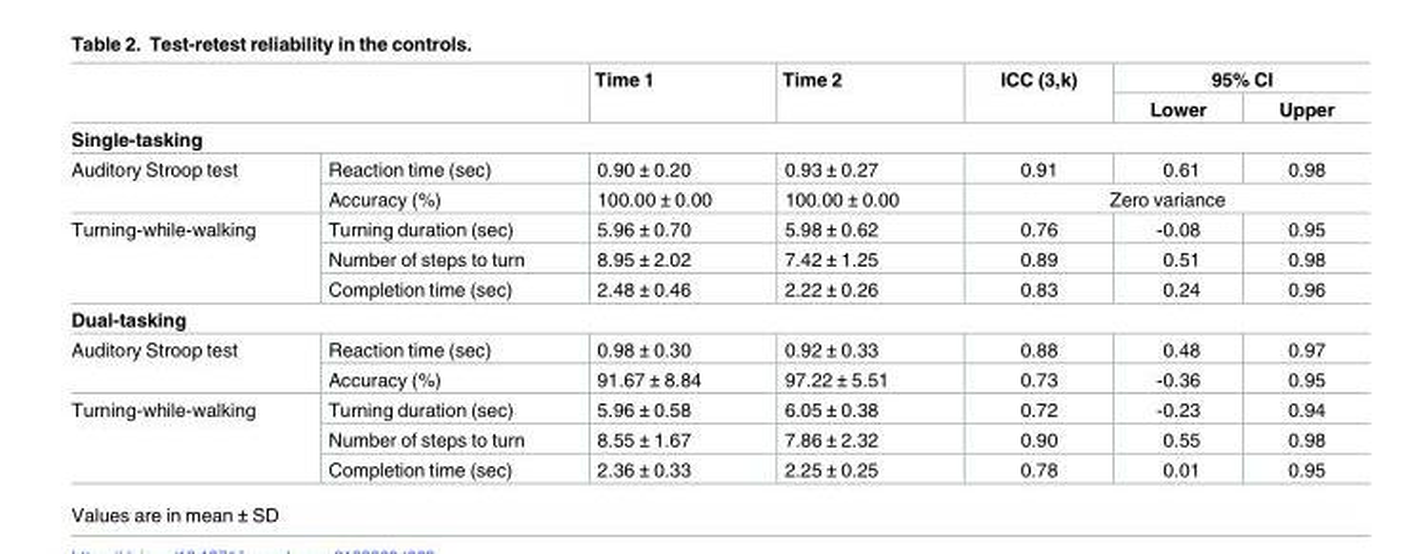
<table><thead><tr><td rowspan="2"></td><td rowspan="2"></td><td rowspan="2">Time 1</td><td rowspan="2">Time 2</td><td rowspan="2">ICC (3,k)</td><td colspan="2">95% CI</td></tr><tr><td>Lower</td><td>Upper</td></tr></thead><tbody><tr><td colspan="7">Single-tasking</td></tr><tr><td rowspan="2">Auditory Stroop test</td><td>Reaction time (sec)</td><td>0.90 ± 0.20</td><td>0.93 ± 0.27</td><td>0.91</td><td>0.61</td><td>0.98</td></tr><tr><td>Accuracy (%)</td><td>100.00 ± 0.00</td><td>100.00 ± 0.00</td><td colspan="3">Zero variance</td></tr><tr><td rowspan="3">Turning-while-walking</td><td>Turning duration (sec)</td><td>5.96 ± 0.70</td><td>5.98 ± 0.62</td><td>0.76</td><td>-0.08</td><td>0.95</td></tr><tr><td>Number of steps to turn</td><td>8.95 ± 2.02</td><td>7.42 ± 1.25</td><td>0.89</td><td>0.51</td><td>0.98</td></tr><tr><td>Completion time (sec)</td><td>2.48 ± 0.46</td><td>2.22 ± 0.26</td><td>0.83</td><td>0.24</td><td>0.96</td></tr><tr><td colspan="7">Dual-tasking</td></tr><tr><td rowspan="2">Auditory Stroop test</td><td>Reaction time (sec)</td><td>0.98 ± 0.30</td><td>0.92 ± 0.33</td><td>0.88</td><td>0.48</td><td>0.97</td></tr><tr><td>Accuracy (%)</td><td>91.67 ± 8.84</td><td>97.22 ± 5.51</td><td>0.73</td><td>-0.36</td><td>0.95</td></tr><tr><td rowspan="3">Turning-while-walking</td><td>Turning duration (sec)</td><td>5.96 ± 0.58</td><td>6.05 ± 0.38</td><td>0.72</td><td>-0.23</td><td>0.94</td></tr><tr><td>Number of steps to turn</td><td>8.55 ± 1.67</td><td>7.86 ± 2.32</td><td>0.90</td><td>0.55</td><td>0.98</td></tr><tr><td>Completion time (sec)</td><td>2.36 ± 0.33</td><td>2.25 ± 0.25</td><td>0.78</td><td>0.01</td><td>0.95</td></tr></tbody></table>